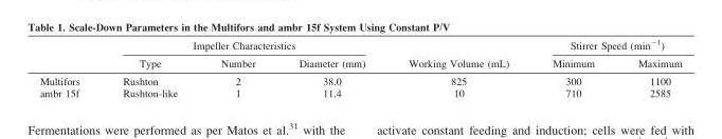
<table><thead><tr><td rowspan="2"></td><td colspan="3">Impeller Characteristics</td><td rowspan="2">Working Volume (mL)</td><td colspan="2">Stirrer Speed (min<sup>−1</sup>)</td></tr><tr><td>Type</td><td>Number</td><td>Diameter (mm)</td><td>Minimum</td><td>Maximum</td></tr></thead><tbody><tr><td>Multifors</td><td>Rushton</td><td>2</td><td>38.0</td><td>825</td><td>300</td><td>1100</td></tr><tr><td>ambr 15f</td><td>Rushton-like</td><td>1</td><td>11.4</td><td>10</td><td>710</td><td>2585</td></tr></tbody></table>